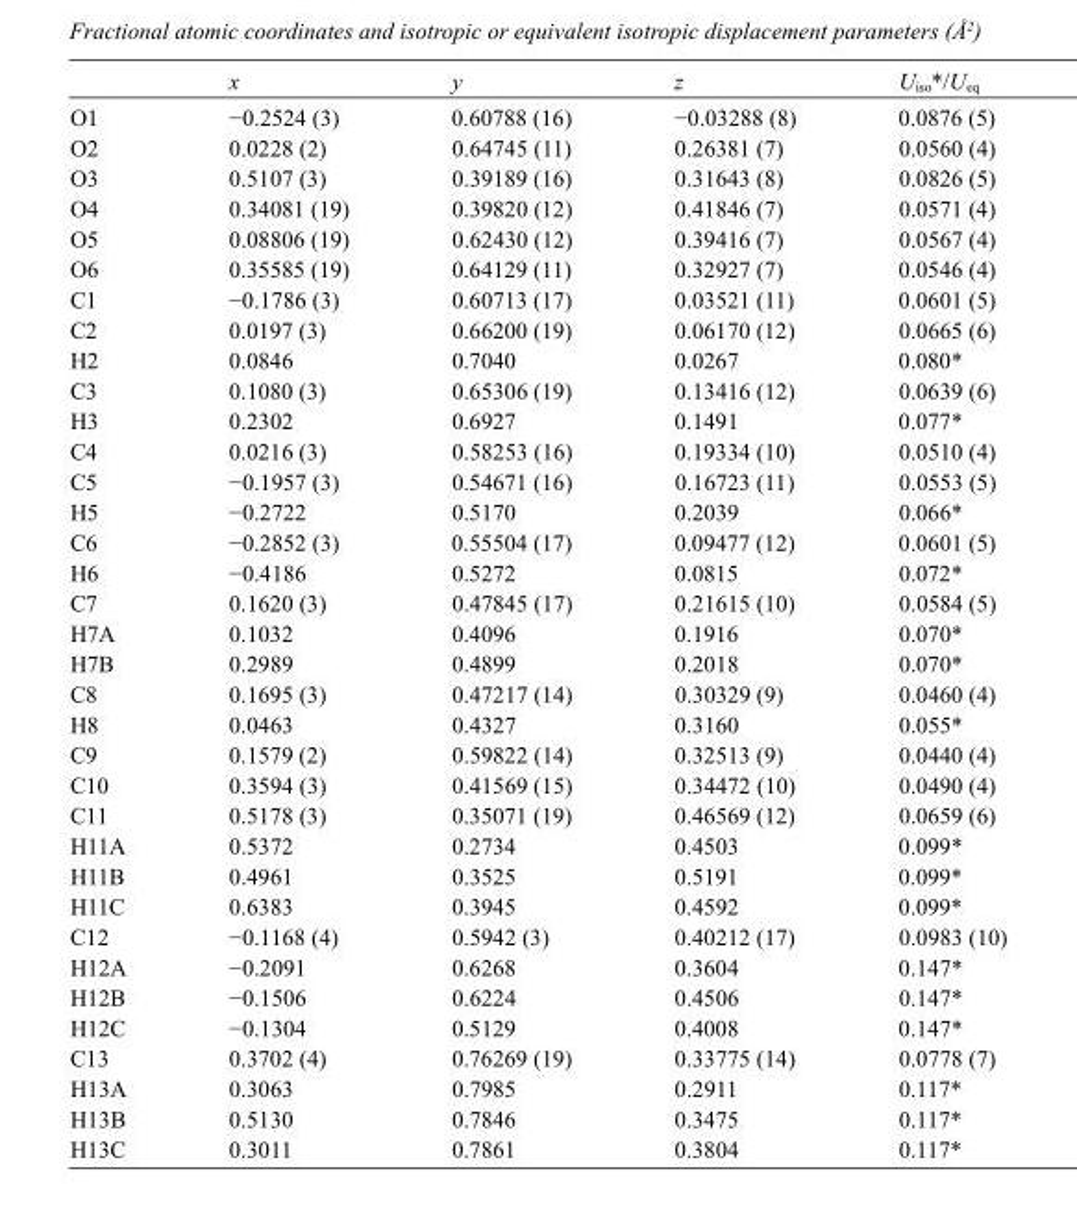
<table><thead><tr><td></td><td>x</td><td>y</td><td>z</td><td>U<sub>iso</sub>*/U<sub>eq</sub></td></tr></thead><tbody><tr><td>O1</td><td>−0.2524 (3)</td><td>0.60788 (16)</td><td>−0.03288 (8)</td><td>0.0876 (5)</td></tr><tr><td>O2</td><td>0.0228 (2)</td><td>0.64745 (11)</td><td>0.26381 (7)</td><td>0.0560 (4)</td></tr><tr><td>O3</td><td>0.5107 (3)</td><td>0.39189 (16)</td><td>0.31643 (8)</td><td>0.0826 (5)</td></tr><tr><td>O4</td><td>0.34081 (19)</td><td>0.39820 (12)</td><td>0.41846 (7)</td><td>0.0571 (4)</td></tr><tr><td>O5</td><td>0.08806 (19)</td><td>0.62430 (12)</td><td>0.39416 (7)</td><td>0.0567 (4)</td></tr><tr><td>O6</td><td>0.35585 (19)</td><td>0.64129 (11)</td><td>0.32927 (7)</td><td>0.0546 (4)</td></tr><tr><td>C1</td><td>−0.1786 (3)</td><td>0.60713 (17)</td><td>0.03521 (11)</td><td>0.0601 (5)</td></tr><tr><td>C2</td><td>0.0197 (3)</td><td>0.66200 (19)</td><td>0.06170 (12)</td><td>0.0665 (6)</td></tr><tr><td>H2</td><td>0.0846</td><td>0.7040</td><td>0.0267</td><td>0.080*</td></tr><tr><td>C3</td><td>0.1080 (3)</td><td>0.65306 (19)</td><td>0.13416 (12)</td><td>0.0639 (6)</td></tr><tr><td>H3</td><td>0.2302</td><td>0.6927</td><td>0.1491</td><td>0.077*</td></tr><tr><td>C4</td><td>0.0216 (3)</td><td>0.58253 (16)</td><td>0.19334 (10)</td><td>0.0510 (4)</td></tr><tr><td>C5</td><td>−0.1957 (3)</td><td>0.54671 (16)</td><td>0.16723 (11)</td><td>0.0553 (5)</td></tr><tr><td>H5</td><td>−0.2722</td><td>0.5170</td><td>0.2039</td><td>0.066*</td></tr><tr><td>C6</td><td>−0.2852 (3)</td><td>0.55504 (17)</td><td>0.09477 (12)</td><td>0.0601 (5)</td></tr><tr><td>H6</td><td>−0.4186</td><td>0.5272</td><td>0.0815</td><td>0.072*</td></tr><tr><td>C7</td><td>0.1620 (3)</td><td>0.47845 (17)</td><td>0.21615 (10)</td><td>0.0584 (5)</td></tr><tr><td>H7A</td><td>0.1032</td><td>0.4096</td><td>0.1916</td><td>0.070*</td></tr><tr><td>H7B</td><td>0.2989</td><td>0.4899</td><td>0.2018</td><td>0.070*</td></tr><tr><td>C8</td><td>0.1695 (3)</td><td>0.47217 (14)</td><td>0.30329 (9)</td><td>0.0460 (4)</td></tr><tr><td>H8</td><td>0.0463</td><td>0.4327</td><td>0.3160</td><td>0.055*</td></tr><tr><td>C9</td><td>0.1579 (2)</td><td>0.59822 (14)</td><td>0.32513 (9)</td><td>0.0440 (4)</td></tr><tr><td>C10</td><td>0.3594 (3)</td><td>0.41569 (15)</td><td>0.34472 (10)</td><td>0.0490 (4)</td></tr><tr><td>C11</td><td>0.5178 (3)</td><td>0.35071 (19)</td><td>0.46569 (12)</td><td>0.0659 (6)</td></tr><tr><td>H11A</td><td>0.5372</td><td>0.2734</td><td>0.4503</td><td>0.099*</td></tr><tr><td>H11B</td><td>0.4961</td><td>0.3525</td><td>0.5191</td><td>0.099*</td></tr><tr><td>H11C</td><td>0.6383</td><td>0.3945</td><td>0.4592</td><td>0.099*</td></tr><tr><td>C12</td><td>−0.1168 (4)</td><td>0.5942 (3)</td><td>0.40212 (17)</td><td>0.0983 (10)</td></tr><tr><td>H12A</td><td>−0.2091</td><td>0.6268</td><td>0.3604</td><td>0.147*</td></tr><tr><td>H12B</td><td>−0.1506</td><td>0.6224</td><td>0.4506</td><td>0.147*</td></tr><tr><td>H12C</td><td>−0.1304</td><td>0.5129</td><td>0.4008</td><td>0.147*</td></tr><tr><td>C13</td><td>0.3702 (4)</td><td>0.76269 (19)</td><td>0.33775 (14)</td><td>0.0778 (7)</td></tr><tr><td>H13A</td><td>0.3063</td><td>0.7985</td><td>0.2911</td><td>0.117*</td></tr><tr><td>H13B</td><td>0.5130</td><td>0.7846</td><td>0.3475</td><td>0.117*</td></tr><tr><td>H13C</td><td>0.3011</td><td>0.7861</td><td>0.3804</td><td>0.117*</td></tr></tbody></table>